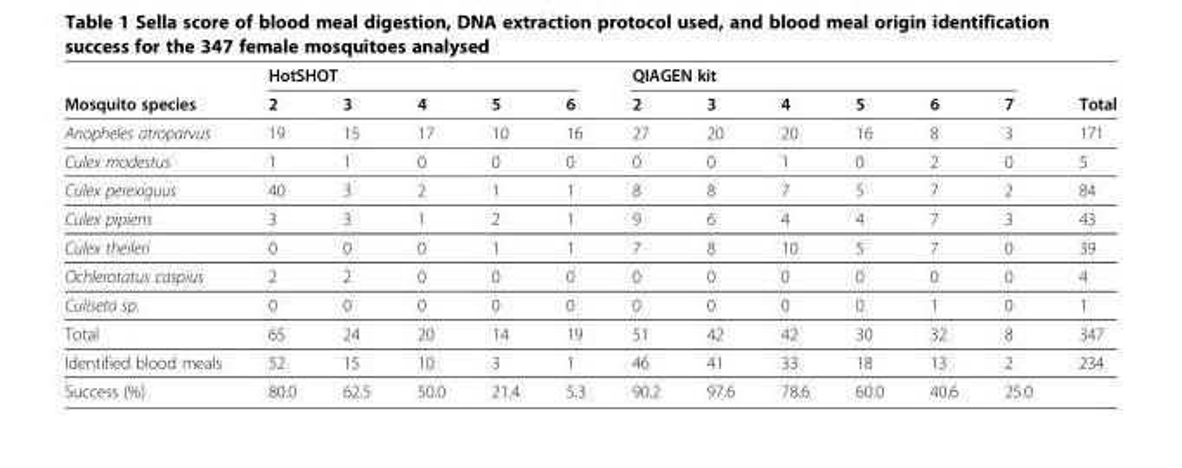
<table><thead><tr><td rowspan="2">Mosquito species</td><td colspan="5">HotSHOT</td><td colspan="6">QIAGEN kit</td><td rowspan="2">Total</td></tr><tr><td>2</td><td>3</td><td>4</td><td>5</td><td>6</td><td>2</td><td>3</td><td>4</td><td>5</td><td>6</td><td>7</td></tr></thead><tbody><tr><td>Anopheles atroparvus</td><td>19</td><td>15</td><td>17</td><td>10</td><td>16</td><td>27</td><td>20</td><td>20</td><td>16</td><td>8</td><td>3</td><td>171</td></tr><tr><td>Culex modestus</td><td>1</td><td>1</td><td>0</td><td>0</td><td>0</td><td>0</td><td>0</td><td>1</td><td>0</td><td>2</td><td>0</td><td>5</td></tr><tr><td>Culex perexiguus</td><td>40</td><td>3</td><td>2</td><td>1</td><td>1</td><td>8</td><td>8</td><td>7</td><td>5</td><td>7</td><td>2</td><td>84</td></tr><tr><td>Culex pipiens</td><td>3</td><td>3</td><td>1</td><td>2</td><td>1</td><td>9</td><td>6</td><td>4</td><td>4</td><td>7</td><td>3</td><td>43</td></tr><tr><td>Culex theileri</td><td>0</td><td>0</td><td>0</td><td>1</td><td>1</td><td>7</td><td>8</td><td>10</td><td>5</td><td>7</td><td>0</td><td>39</td></tr><tr><td>Ochlerotatus caspius</td><td>2</td><td>2</td><td>0</td><td>0</td><td>0</td><td>0</td><td>0</td><td>0</td><td>0</td><td>0</td><td>0</td><td>4</td></tr><tr><td>Culiseta sp.</td><td>0</td><td>0</td><td>0</td><td>0</td><td>0</td><td>0</td><td>0</td><td>0</td><td>0</td><td>1</td><td>0</td><td>1</td></tr><tr><td>Total</td><td>65</td><td>24</td><td>20</td><td>14</td><td>19</td><td>51</td><td>42</td><td>42</td><td>30</td><td>32</td><td>8</td><td>347</td></tr><tr><td>Identified blood meals</td><td>52</td><td>15</td><td>10</td><td>3</td><td>1</td><td>46</td><td>41</td><td>33</td><td>18</td><td>13</td><td>2</td><td>234</td></tr><tr><td>Success (%)</td><td>80.0</td><td>62.5</td><td>50.0</td><td>21.4</td><td>5.3</td><td>90.2</td><td>97.6</td><td>78.6</td><td>60.0</td><td>40.6</td><td>25.0</td><td></td></tr></tbody></table>